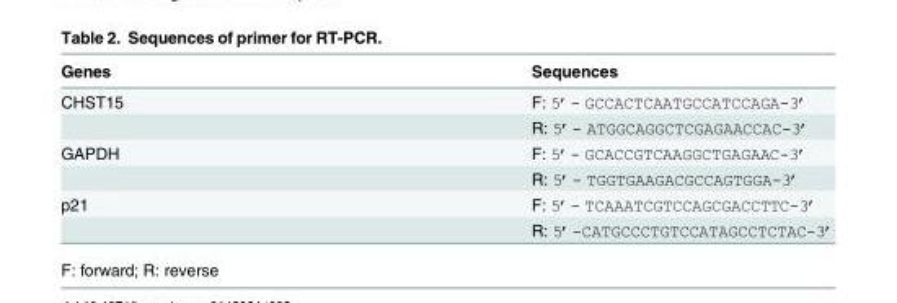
<table><thead><tr><td>Genes</td><td>Sequences</td></tr></thead><tbody><tr><td rowspan="2">CHST15</td><td>F: 5’- GCCACTCAATGCCATCCAGA-3’</td></tr><tr><td>R: 5’- ATGGCAGGCTCGAGAACCAC-3’</td></tr><tr><td rowspan="2">GAPDH</td><td>F: 5’- GCACCGTCAAGGCTGAGAAC-3’</td></tr><tr><td>R: 5’- TGGTGAAGACGCCAGTGGA-3’</td></tr><tr><td rowspan="2">p21</td><td>F: 5’- TCAAATCGTCCAGCGACCTTC-3’</td></tr><tr><td>R: 5’-CATGCCCTGTCCATAGCCTCTAC-3’</td></tr></tbody></table>